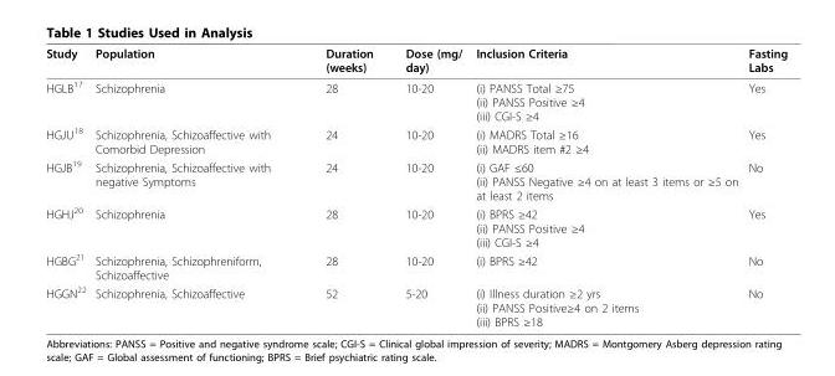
<table><thead><tr><td>Study</td><td>Population</td><td>Duration (weeks)</td><td>Dose (mg/ day)</td><td>Inclusion Criteria</td><td>Fasting Labs</td></tr></thead><tbody><tr><td>HGLB<sup>17</sup></td><td>Schizophrenia</td><td>28</td><td>10-20</td><td>(i) PANSS Total ≥75 (ii) PANSS Positive ≥4 (iii) CGI-S ≥4</td><td>Yes</td></tr><tr><td>HGJU<sup>18</sup></td><td>Schizophrenia, Schizoaffective with Comorbid Depression</td><td>24</td><td>10-20</td><td>(i) MADRS Total ≥16 (ii) MADRS item #2 ≥4</td><td>Yes</td></tr><tr><td>HGJB<sup>19</sup></td><td>Schizophrenia, Schizoaffective with negative Symptoms</td><td>24</td><td>10-20</td><td>(i) GAF ≤60 (ii) PANSS Negative ≥4 on at least 3 items or ≥5 on at least 2 items</td><td>No</td></tr><tr><td>HGHJ<sup>20</sup></td><td>Schizophrenia</td><td>28</td><td>10-20</td><td>(i) BPRS ≥42 (ii) PANSS Positive ≥4 (iii) CGI-S ≥4</td><td>Yes</td></tr><tr><td>HGBG<sup>21</sup></td><td>Schizophrenia, Schizophreniform, Schizoaffective</td><td>28</td><td>10-20</td><td>(i) BPRS ≥42</td><td>No</td></tr><tr><td>HGGN<sup>22</sup></td><td>Schizophrenia, Schizoaffective</td><td>52</td><td>5-20</td><td>(i) Illness duration ≥2 yrs (ii) PANSS Positive≥4 on 2 items (iii) BPRS ≥18</td><td>No</td></tr></tbody></table>